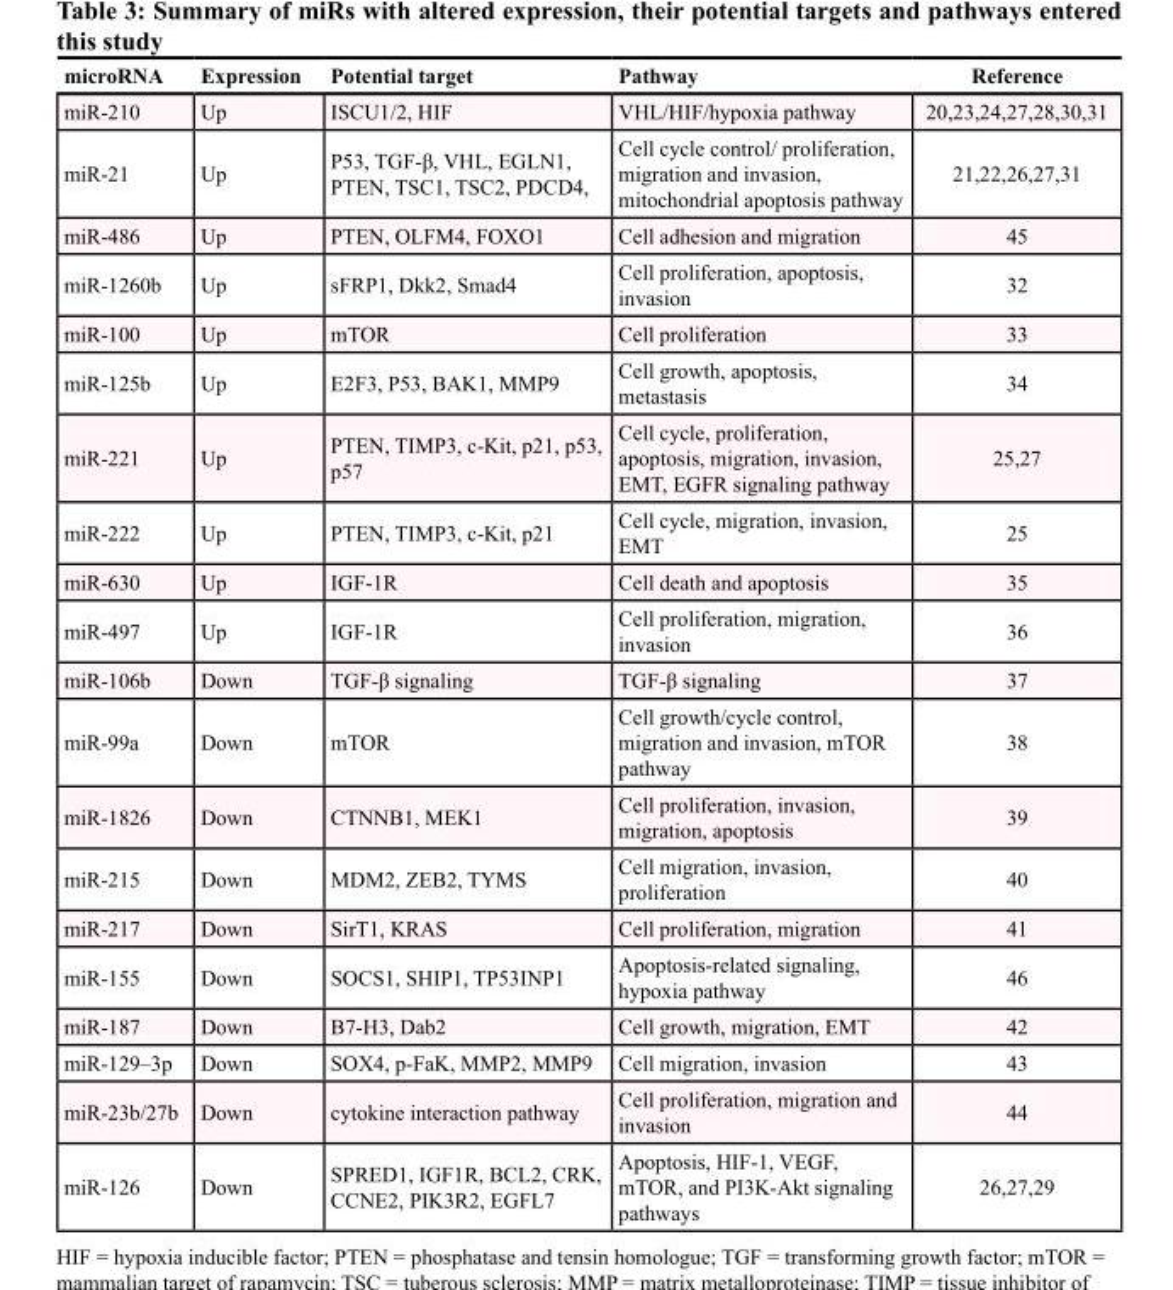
<table><thead><tr><td>microRNA</td><td>Expression</td><td>Potential target</td><td>Pathway</td><td>Reference</td></tr></thead><tbody><tr><td>miR-210</td><td>Up</td><td>ISCU1/2, HIF</td><td>VHL/HIF/hypoxia pathway</td><td>20,23,24,27,28,30,31</td></tr><tr><td>miR-21</td><td>Up</td><td>P53, TGF-β, VHL, EGLN1, PTEN, TSC1, TSC2, PDCD4,</td><td>Cell cycle control/ proliferation, migration and invasion, mitochondrial apoptosis pathway</td><td>21,22,26,27,31</td></tr><tr><td>miR-486</td><td>Up</td><td>PTEN, OLFM4, FOXO1</td><td>Cell adhesion and migration</td><td>45</td></tr><tr><td>miR-1260b</td><td>Up</td><td>sFRP1, Dkk2, Smad4</td><td>Cell proliferation, apoptosis, invasion</td><td>32</td></tr><tr><td>miR-100</td><td>Up</td><td>mTOR</td><td>Cell proliferation</td><td>33</td></tr><tr><td>miR-125b</td><td>Up</td><td>E2F3, P53, BAK1, MMP9</td><td>Cell growth, apoptosis, metastasis</td><td>34</td></tr><tr><td>miR-221</td><td>Up</td><td>PTEN, TIMP3, c-Kit, p21, p53, p57</td><td>Cell cycle, proliferation, apoptosis, migration, invasion, EMT, EGFR signaling pathway</td><td>25,27</td></tr><tr><td>miR-222</td><td>Up</td><td>PTEN, TIMP3, c-Kit, p21</td><td>Cell cycle, migration, invasion, EMT</td><td>25</td></tr><tr><td>miR-630</td><td>Up</td><td>IGF-1R</td><td>Cell death and apoptosis</td><td>35</td></tr><tr><td>miR-497</td><td>Up</td><td>IGF-1R</td><td>Cell proliferation, migration, invasion</td><td>36</td></tr><tr><td>miR-106b</td><td>Down</td><td>TGF-β signaling</td><td>TGF-β signaling</td><td>37</td></tr><tr><td>miR-99a</td><td>Down</td><td>mTOR</td><td>Cell growth/cycle control, migration and invasion, mTOR pathway</td><td>38</td></tr><tr><td>miR-1826</td><td>Down</td><td>CTNNB1, MEK1</td><td>Cell proliferation, invasion, migration, apoptosis</td><td>39</td></tr><tr><td>miR-215</td><td>Down</td><td>MDM2, ZEB2, TYMS</td><td>Cell migration, invasion, proliferation</td><td>40</td></tr><tr><td>miR-217</td><td>Down</td><td>SirT1, KRAS</td><td>Cell proliferation, migration</td><td>41</td></tr><tr><td>miR-155</td><td>Down</td><td>SOCS1, SHIP1, TP53INP1</td><td>Apoptosis-related signaling, hypoxia pathway</td><td>46</td></tr><tr><td>miR-187</td><td>Down</td><td>B7-H3, Dab2</td><td>Cell growth, migration, EMT</td><td>42</td></tr><tr><td>miR-129–3p</td><td>Down</td><td>SOX4, p-FaK, MMP2, MMP9</td><td>Cell migration, invasion</td><td>43</td></tr><tr><td>miR-23b/27b</td><td>Down</td><td>cytokine interaction pathway</td><td>Cell proliferation, migration and invasion</td><td>44</td></tr><tr><td>miR-126</td><td>Down</td><td>SPRED1, IGF1R, BCL2, CRK, CCNE2, PIK3R2, EGFL7</td><td>Apoptosis, HIF-1, VEGF, mTOR, and PI3K-Akt signaling pathways</td><td>26,27,29</td></tr></tbody></table>